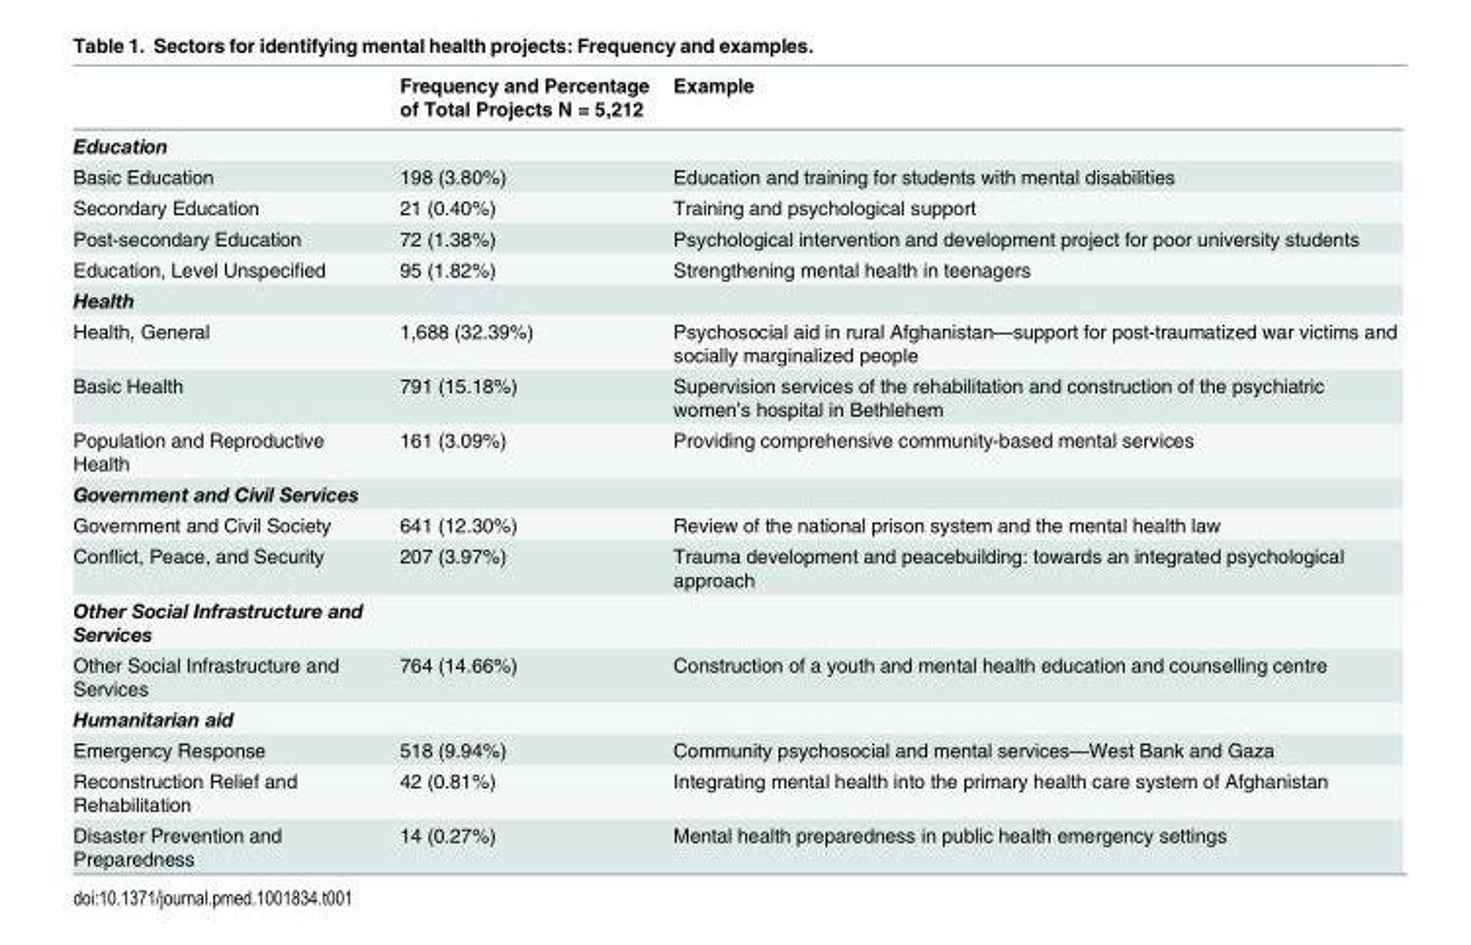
<table><thead><tr><td></td><td>Frequency and Percentage of Total Projects N = 5,212</td><td>Example</td></tr></thead><tbody><tr><td colspan="3">Education</td></tr><tr><td>Basic Education</td><td>198 (3.80%)</td><td>Education and training for students with mental disabilities</td></tr><tr><td>Secondary Education</td><td>21 (0.40%)</td><td>Training and psychological support</td></tr><tr><td>Post-secondary Education</td><td>72 (1.38%)</td><td>Psychological intervention and development project for poor university students</td></tr><tr><td>Education, Level Unspecified</td><td>95 (1.82%)</td><td>Strengthening mental health in teenagers</td></tr><tr><td colspan="3">Health</td></tr><tr><td>Health, General</td><td>1,688 (32.39%)</td><td>Psychosocial aid in rural Afghanistan—support for post-traumatized war victims and socially marginalized people</td></tr><tr><td>Basic Health</td><td>791 (15.18%)</td><td>Supervision services of the rehabilitation and construction of the psychiatric women’s hospital in Bethlehem</td></tr><tr><td>Population and Reproductive Health</td><td>161 (3.09%)</td><td>Providing comprehensive community-based mental services</td></tr><tr><td colspan="3">Government and Civil Services</td></tr><tr><td>Government and Civil Society</td><td>641 (12.30%)</td><td>Review of the national prison system and the mental health law</td></tr><tr><td>Conflict, Peace, and Security</td><td>207 (3.97%)</td><td>Trauma development and peacebuilding: towards an integrated psychological approach</td></tr><tr><td colspan="3">Other Social Infrastructure and Services</td></tr><tr><td>Other Social Infrastructure and Services</td><td>764 (14.66%)</td><td>Construction of a youth and mental health education and counselling centre</td></tr><tr><td colspan="3">Humanitarian aid</td></tr><tr><td>Emergency Response</td><td>518 (9.94%)</td><td>Community psychosocial and mental services—West Bank and Gaza</td></tr><tr><td>Reconstruction Relief and Rehabilitation</td><td>42 (0.81%)</td><td>Integrating mental health into the primary health care system of Afghanistan</td></tr><tr><td>Disaster Prevention and Preparedness</td><td>14 (0.27%)</td><td>Mental health preparedness in public health emergency settings</td></tr></tbody></table>